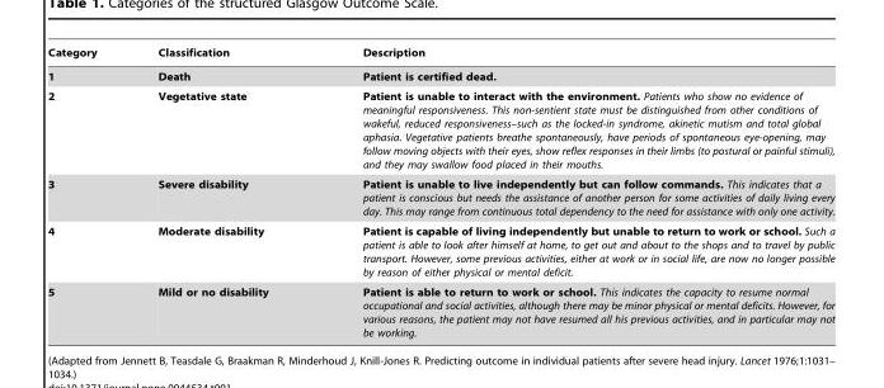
<table><thead><tr><td>Category</td><td>Classification</td><td>Description</td></tr></thead><tbody><tr><td>1</td><td>Death</td><td>Patient is certified dead.</td></tr><tr><td>2</td><td>Vegetative state</td><td>Patient is unable to interact with the environment. Patients who show no evidence of meaningful responsiveness. This non-sentient state must be distinguished from other conditions of wakeful, reduced responsiveness–such as the locked-in syndrome, akinetic mutism and total global aphasia. Vegetative patients breathe spontaneously, have periods of spontaneous eye-opening, may follow moving objects with their eyes, show reflex responses in their limbs (to postural or painful stimuli), and they may swallow food placed in their mouths.</td></tr><tr><td>3</td><td>Severe disability</td><td>Patient is unable to live independently but can follow commands. This indicates that a patient is conscious but needs the assistance of another person for some activities of daily living every day. This may range from continuous total dependency to the need for assistance with only one activity.</td></tr><tr><td>4</td><td>Moderate disability</td><td>Patient is capable of living independently but unable to return to work or school. Such a patient is able to look after himself at home, to get out and about to the shops and to travel by public transport. However, some previous activities, either at work or in social life, are now no longer possible by reason of either physical or mental deficit.</td></tr><tr><td>5</td><td>Mild or no disability</td><td>Patient is able to return to work or school. This indicates the capacity to resume normal occupational and social activities, although there may be minor physical or mental deficits. However, for various reasons, the patient may not have resumed all his previous activities, and in particular may not be working.</td></tr></tbody></table>